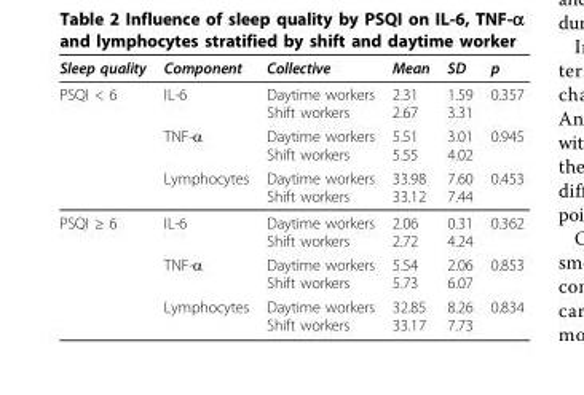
<table><thead><tr><td>Sleep quality</td><td>Component</td><td>Collective</td><td>Mean</td><td>SD</td><td>p</td></tr></thead><tbody><tr><td rowspan="3">PSQI &lt; 6</td><td>IL-6</td><td>Daytime workers Shift workers</td><td>2.31 2.67</td><td>1.59 3.31</td><td>0.357</td></tr><tr><td>TNF-α</td><td>Daytime workers Shift workers</td><td>5.51 5.55</td><td>3.01 4.02</td><td>0.945</td></tr><tr><td>Lymphocytes</td><td>Daytime workers Shift workers</td><td>33.98 33.12</td><td>7.60 7.44</td><td>0.453</td></tr><tr><td rowspan="3">PSQI ≥ 6</td><td>IL-6</td><td>Daytime workers Shift workers</td><td>2.06 2.72</td><td>0.31 4.24</td><td>0.362</td></tr><tr><td>TNF-α</td><td>Daytime workers Shift workers</td><td>5.54 5.73</td><td>2.06 6.07</td><td>0.853</td></tr><tr><td>Lymphocytes</td><td>Daytime workers Shift workers</td><td>32.85 33.17</td><td>8.26 7.73</td><td>0.834</td></tr></tbody></table>